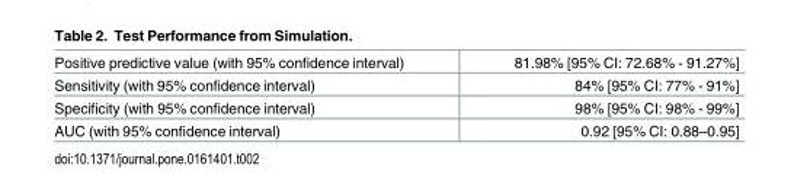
<table><tbody><tr><td>Positive predictive value (with 95% confidence interval)</td><td>81.98% [95% CI: 72.68% - 91.27%]</td></tr><tr><td>Sensitivity (with 95% confidence interval)</td><td>84% [95% CI: 77% - 91%]</td></tr><tr><td>Specificity (with 95% confidence interval)</td><td>98% [95% CI: 98% - 99%]</td></tr><tr><td>AUC (with 95% confidence interval)</td><td>0.92 [95% CI: 0.88–0.95]</td></tr></tbody></table>